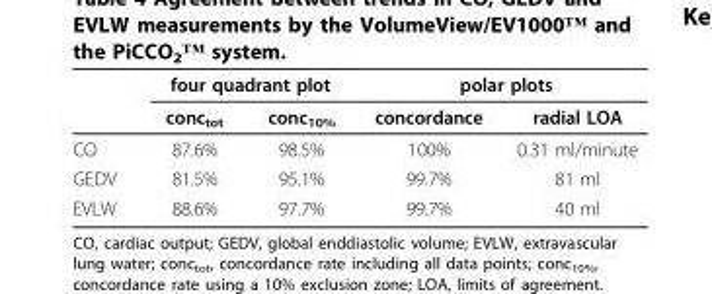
<table><thead><tr><td rowspan="2"></td><td colspan="2">four quadrant plot</td><td colspan="2">polar plots</td></tr><tr><td>conc<sub>tot</sub></td><td>conc<sub>10%</sub></td><td>concordance</td><td>radial LOA</td></tr></thead><tbody><tr><td>CO</td><td>87.6%</td><td>98.5%</td><td>100%</td><td>0.31 ml/minute</td></tr><tr><td>GEDV</td><td>81.5%</td><td>95.1%</td><td>99.7%</td><td>81 ml</td></tr><tr><td>EVLW</td><td>88.6%</td><td>97.7%</td><td>99.7%</td><td>40 ml</td></tr></tbody></table>